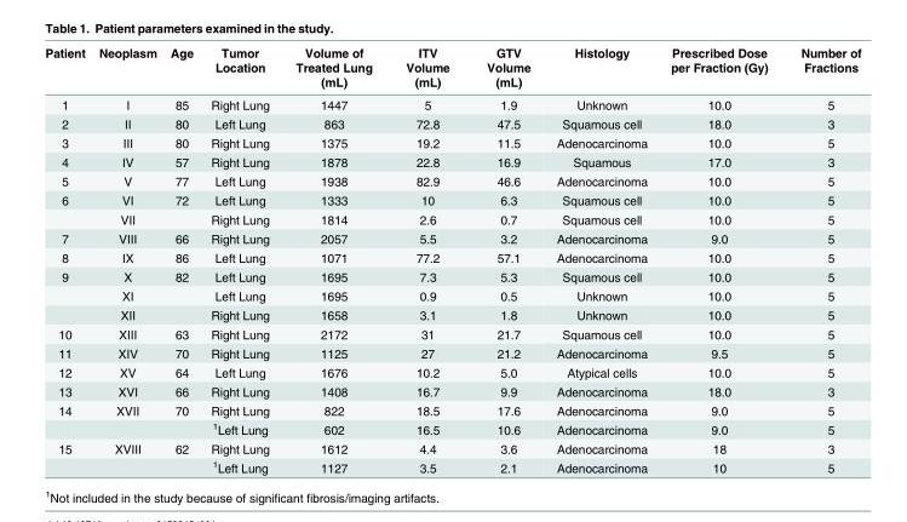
<table><thead><tr><td>Patient</td><td>Neoplasm</td><td>Age</td><td>Tumor Location</td><td>Volume of Treated Lung (mL)</td><td>ITV Volume (mL)</td><td>GTV Volume (mL)</td><td>Histology</td><td>Prescribed Dose per Fraction (Gy)</td><td>Number of Fractions</td></tr></thead><tbody><tr><td>1</td><td>I</td><td>85</td><td>Right Lung</td><td>1447</td><td>5</td><td>1.9</td><td>Unknown</td><td>10.0</td><td>5</td></tr><tr><td>2</td><td>II</td><td>80</td><td>Left Lung</td><td>863</td><td>72.8</td><td>47.5</td><td>Squamous cell</td><td>18.0</td><td>3</td></tr><tr><td>3</td><td>III</td><td>80</td><td>Right Lung</td><td>1375</td><td>19.2</td><td>11.5</td><td>Adenocarcinoma</td><td>10.0</td><td>5</td></tr><tr><td>4</td><td>IV</td><td>57</td><td>Right Lung</td><td>1878</td><td>22.8</td><td>16.9</td><td>Squamous</td><td>17.0</td><td>3</td></tr><tr><td>5</td><td>V</td><td>77</td><td>Left Lung</td><td>1938</td><td>82.9</td><td>46.6</td><td>Adenocarcinoma</td><td>10.0</td><td>5</td></tr><tr><td rowspan="2">6</td><td>VI</td><td>72</td><td>Left Lung</td><td>1333</td><td>10</td><td>6.3</td><td>Squamous cell</td><td>10.0</td><td>5</td></tr><tr><td>VII</td><td></td><td>Right Lung</td><td>1814</td><td>2.6</td><td>0.7</td><td>Squamous cell</td><td>10.0</td><td>5</td></tr><tr><td>7</td><td>VIII</td><td>66</td><td>Right Lung</td><td>2057</td><td>5.5</td><td>3.2</td><td>Adenocarcinoma</td><td>9.0</td><td>5</td></tr><tr><td>8</td><td>IX</td><td>86</td><td>Left Lung</td><td>1071</td><td>77.2</td><td>57.1</td><td>Adenocarcinoma</td><td>10.0</td><td>5</td></tr><tr><td rowspan="3">9</td><td>X</td><td>82</td><td>Left Lung</td><td>1695</td><td>7.3</td><td>5.3</td><td>Squamous cell</td><td>10.0</td><td>5</td></tr><tr><td>XI</td><td></td><td>Left Lung</td><td>1695</td><td>0.9</td><td>0.5</td><td>Unknown</td><td>10.0</td><td>5</td></tr><tr><td>XII</td><td></td><td>Right Lung</td><td>1658</td><td>3.1</td><td>1.8</td><td>Unknown</td><td>10.0</td><td>5</td></tr><tr><td>10</td><td>XIII</td><td>63</td><td>Right Lung</td><td>2172</td><td>31</td><td>21.7</td><td>Squamous cell</td><td>10.0</td><td>5</td></tr><tr><td>11</td><td>XIV</td><td>70</td><td>Right Lung</td><td>1125</td><td>27</td><td>21.2</td><td>Adenocarcinoma</td><td>9.5</td><td>5</td></tr><tr><td>12</td><td>XV</td><td>64</td><td>Left Lung</td><td>1676</td><td>10.2</td><td>5.0</td><td>Atypical cells</td><td>10.0</td><td>5</td></tr><tr><td>13</td><td>XVI</td><td>66</td><td>Right Lung</td><td>1408</td><td>16.7</td><td>9.9</td><td>Adenocarcinoma</td><td>18.0</td><td>3</td></tr><tr><td rowspan="2">14</td><td>XVII</td><td>70</td><td>Right Lung</td><td>822</td><td>18.5</td><td>17.6</td><td>Adenocarcinoma</td><td>9.0</td><td>5</td></tr><tr><td></td><td></td><td><sup>1</sup>Left Lung</td><td>602</td><td>16.5</td><td>10.6</td><td>Adenocarcinoma</td><td>9.0</td><td>5</td></tr><tr><td rowspan="2">15</td><td>XVIII</td><td>62</td><td>Right Lung</td><td>1612</td><td>4.4</td><td>3.6</td><td>Adenocarcinoma</td><td>18</td><td>3</td></tr><tr><td></td><td></td><td><sup>1</sup>Left Lung</td><td>1127</td><td>3.5</td><td>2.1</td><td>Adenocarcinoma</td><td>10</td><td>5</td></tr></tbody></table>